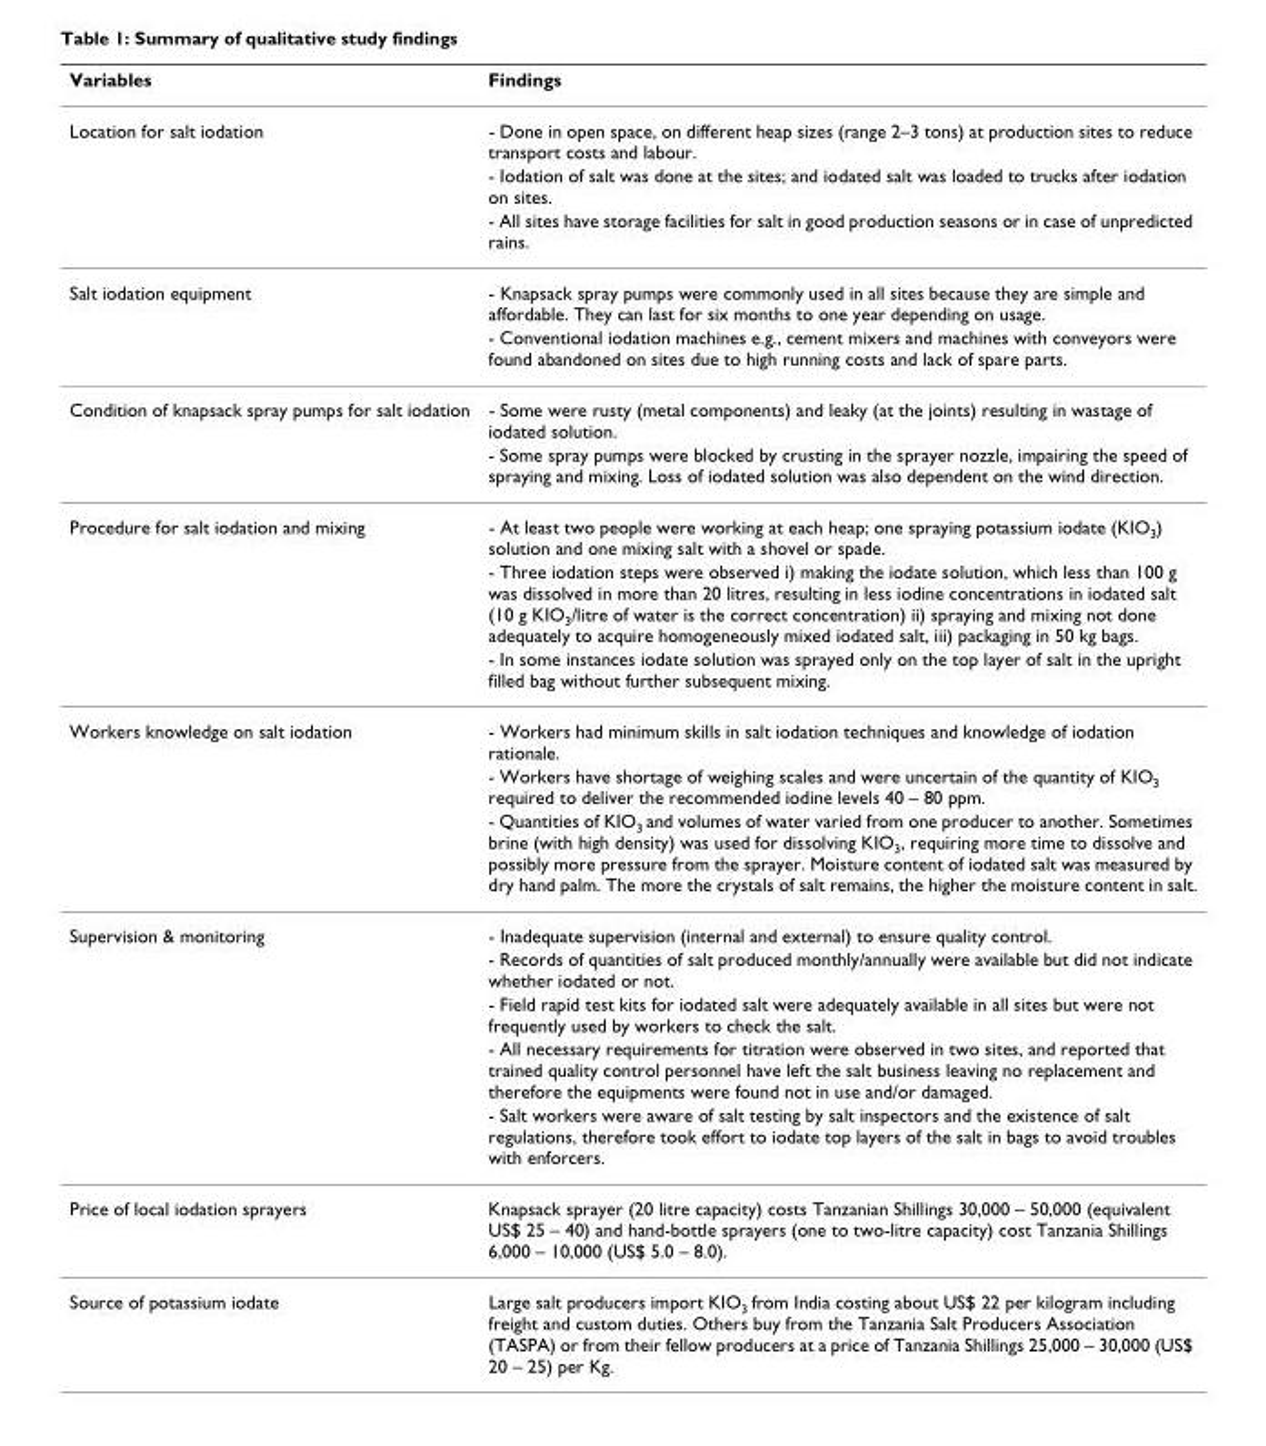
<table><thead><tr><td>Variables</td><td>Findings</td></tr></thead><tbody><tr><td rowspan="3">Location for salt iodation</td><td>- Done in open space, on different heap sizes (range 2–3 tons) at production sites to reduce transport costs and labour.</td></tr><tr><td>- Iodation of salt was done at the sites; and iodated salt was loaded to trucks after iodation on sites.</td></tr><tr><td>- All sites have storage facilities for salt in good production seasons or in case of unpredicted rains.</td></tr><tr><td rowspan="2">Salt iodation equipment</td><td>- Knapsack spray pumps were commonly used in all sites because they are simple and affordable. They can last for six months to one year depending on usage.</td></tr><tr><td>- Conventional iodation machines e.g., cement mixers and machines with conveyors were found abandoned on sites due to high running costs and lack of spare parts.</td></tr><tr><td rowspan="2">Condition of knapsack spray pumps for salt iodation</td><td>- Some were rusty (metal components) and leaky (at the joints) resulting in wastage of iodated solution.</td></tr><tr><td>- Some spray pumps were blocked by crusting in the sprayer nozzle, impairing the speed of spraying and mixing. Loss of iodated solution was also dependent on the wind direction.</td></tr><tr><td rowspan="3">Procedure for salt iodation and mixing</td><td>- At least two people were working at each heap; one spraying potassium iodate (KIO<sub>3</sub>) solution and one mixing salt with a shovel or spade.</td></tr><tr><td>- Three iodation steps were observed i) making the iodate solution, which less than 100 g was dissolved in more than 20 litres, resulting in less iodine concentrations in iodated salt (10 g KIO<sub>3</sub>/litre of water is the correct concentration) ii) spraying and mixing not done adequately to acquire homogeneously mixed iodated salt, iii) packaging in 50 kg bags.</td></tr><tr><td>- In some instances iodate solution was sprayed only on the top layer of salt in the upright filled bag without further subsequent mixing.</td></tr><tr><td rowspan="3">Workers knowledge on salt iodation</td><td>- Workers had minimum skills in salt iodation techniques and knowledge of iodation rationale.</td></tr><tr><td>- Workers have shortage of weighing scales and were uncertain of the quantity of KIO<sub>3</sub> required to deliver the recommended iodine levels 40 – 80 ppm.</td></tr><tr><td>- Quantities of KIO<sub>3</sub> and volumes of water varied from one producer to another. Sometimes brine (with high density) was used for dissolving KIO<sub>3</sub>, requiring more time to dissolve and possibly more pressure from the sprayer. Moisture content of iodated salt was measured by dry hand palm. The more the crystals of salt remains, the higher the moisture content in salt.</td></tr><tr><td rowspan="5">Supervision &amp; monitoring</td><td>- Inadequate supervision (internal and external) to ensure quality control.</td></tr><tr><td>- Records of quantities of salt produced monthly/annually were available but did not indicate whether iodated or not.</td></tr><tr><td>- Field rapid test kits for iodated salt were adequately available in all sites but were not frequently used by workers to check the salt.</td></tr><tr><td>- All necessary requirements for titration were observed in two sites, and reported that trained quality control personnel have left the salt business leaving no replacement and therefore the equipments were found not in use and/or damaged.</td></tr><tr><td>- Salt workers were aware of salt testing by salt inspectors and the existence of salt regulations, therefore took effort to iodate top layers of the salt in bags to avoid troubles with enforcers.</td></tr><tr><td>Price of local iodation sprayers</td><td>Knapsack sprayer (20 litre capacity) costs Tanzanian Shillings 30,000 – 50,000 (equivalent US$ 25 – 40) and hand-bottle sprayers (one to two-litre capacity) cost Tanzania Shillings 6,000 – 10,000 (US$ 5.0 – 8.0).</td></tr><tr><td>Source of potassium iodate</td><td>Large salt producers import KIO<sub>3</sub> from India costing about US$ 22 per kilogram including freight and custom duties. Others buy from the Tanzania Salt Producers Association (TASPA) or from their fellow producers at a price of Tanzania Shillings 25,000 – 30,000 (US$ 20 – 25) per Kg.</td></tr></tbody></table>